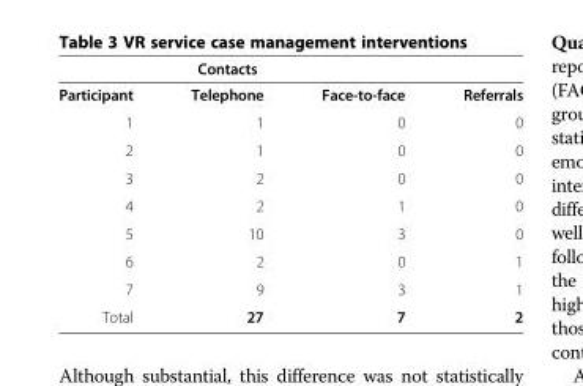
<table><thead><tr><td></td><td>Contacts</td><td></td><td></td></tr></thead><tbody><tr><td>Participant</td><td>Telephone</td><td>Face-to-face</td><td>Referrals</td></tr><tr><td>1</td><td>1</td><td>0</td><td>0</td></tr><tr><td>2</td><td>1</td><td>0</td><td>0</td></tr><tr><td>3</td><td>2</td><td>0</td><td>0</td></tr><tr><td>4</td><td>2</td><td>1</td><td>0</td></tr><tr><td>5</td><td>10</td><td>3</td><td>0</td></tr><tr><td>6</td><td>2</td><td>0</td><td>1</td></tr><tr><td>7</td><td>9</td><td>3</td><td>1</td></tr><tr><td>Total</td><td>27</td><td>7</td><td>2</td></tr></tbody></table>